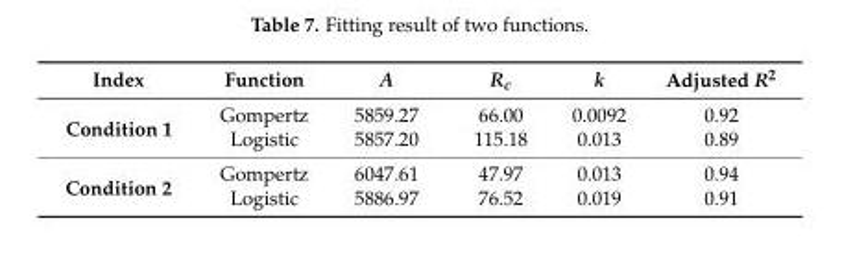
<table><thead><tr><td>Index</td><td>Function</td><td>A</td><td>R<sub>c</sub></td><td>k</td><td>Adjusted R<sup>2</sup></td></tr></thead><tbody><tr><td rowspan="2">Condition 1</td><td>Gompertz</td><td>5859.27</td><td>66.00</td><td>0.0092</td><td>0.92</td></tr><tr><td>Logistic</td><td>5857.20</td><td>115.18</td><td>0.013</td><td>0.89</td></tr><tr><td rowspan="2">Condition 2</td><td>Gompertz</td><td>6047.61</td><td>47.97</td><td>0.013</td><td>0.94</td></tr><tr><td>Logistic</td><td>5886.97</td><td>76.52</td><td>0.019</td><td>0.91</td></tr></tbody></table>